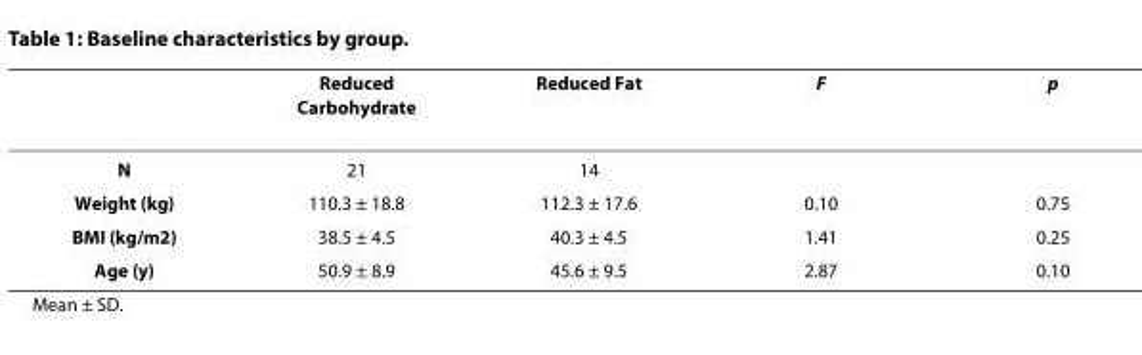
<table><thead><tr><td></td><td>Reduced Carbohydrate</td><td>Reduced Fat</td><td>F</td><td>p</td></tr></thead><tbody><tr><td>N</td><td>21</td><td>14</td><td></td><td></td></tr><tr><td>Weight (kg)</td><td>110.3 ± 18.8</td><td>112.3 ± 17.6</td><td>0.10</td><td>0.75</td></tr><tr><td>BMI (kg/m2)</td><td>38.5 ± 4.5</td><td>40.3 ± 4.5</td><td>1.41</td><td>0.25</td></tr><tr><td>Age (y)</td><td>50.9 ± 8.9</td><td>45.6 ± 9.5</td><td>2.87</td><td>0.10</td></tr></tbody></table>